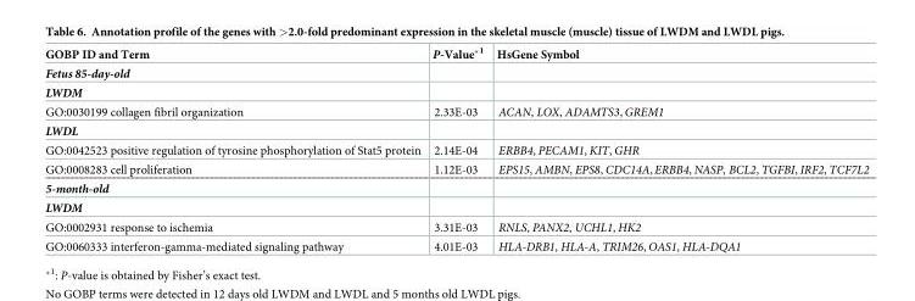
<table><thead><tr><td>GOBP ID and Term</td><td>P-Value*<sup>1</sup></td><td>HsGene Symbol</td></tr></thead><tbody><tr><td colspan="3">Fetus 85-day-old</td></tr><tr><td colspan="3">LWDM</td></tr><tr><td>GO:0030199 collagen fibril organization</td><td>2.33E-03</td><td>ACAN, LOX, ADAMTS3, GREM1</td></tr><tr><td colspan="3">LWDL</td></tr><tr><td>GO:0042523 positive regulation of tyrosine phosphorylation of Stat5 protein</td><td>2.14E-04</td><td>ERBB4, PECAM1, KIT, GHR</td></tr><tr><td>GO:0008283 cell proliferation</td><td>1.12E-03</td><td>EPS15, AMBN, EPS8, CDC14A,ERBB4, NASP, BCL2, TGFBI, IRF2, TCF7L2</td></tr><tr><td colspan="3">5-month-old</td></tr><tr><td colspan="3">LWDM</td></tr><tr><td>GO:0002931 response to ischemia</td><td>3.31E-03</td><td>RNLS, PANX2, UCHL1, HK2</td></tr><tr><td>GO:0060333 interferon-gamma-mediated signaling pathway</td><td>4.01E-03</td><td>HLA-DRB1, HLA-A, TRIM26, OAS1, HLA-DQA1</td></tr></tbody></table>